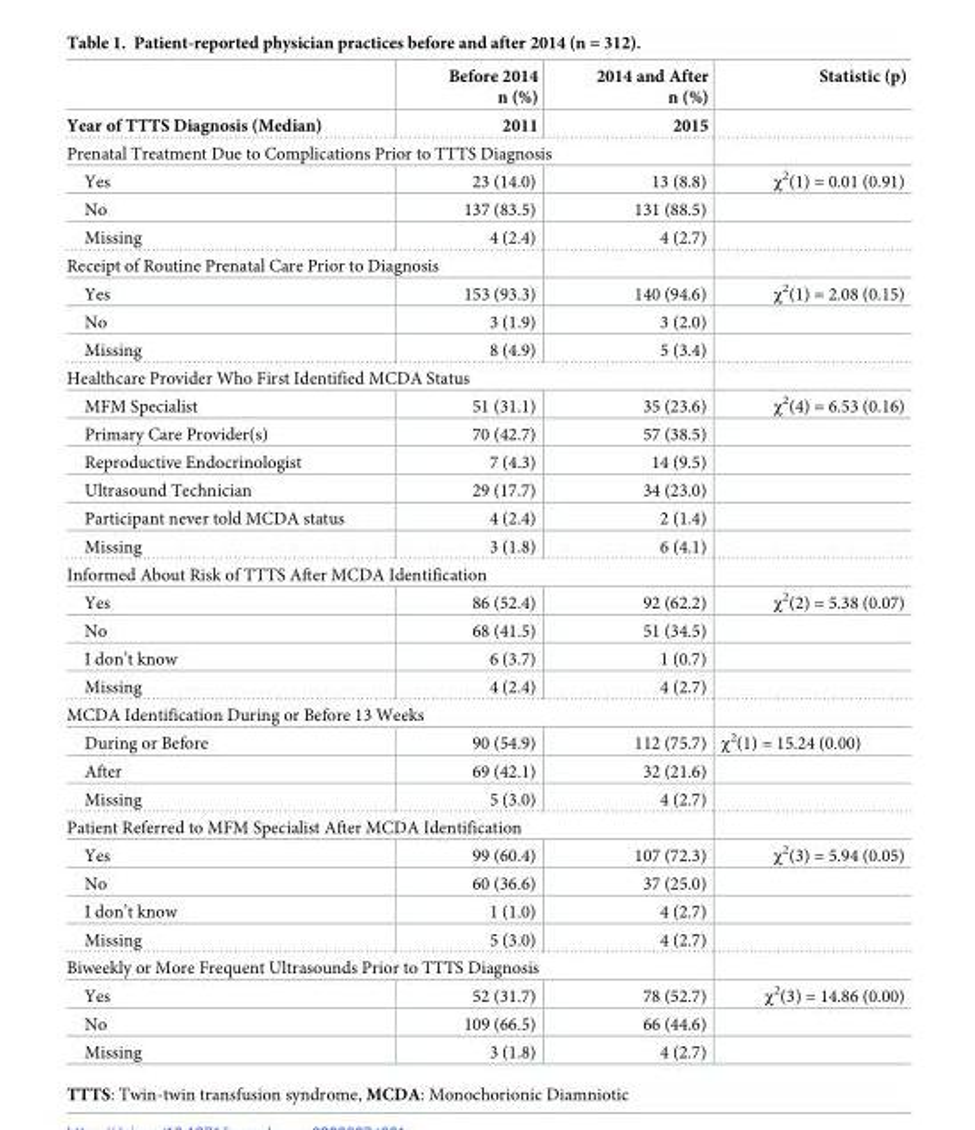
<table><thead><tr><td rowspan="2">Year of TTTS Diagnosis (Median)</td><td rowspan="2">Before 2014 n (%) 2011</td><td rowspan="2">2014 and After n (%) 2015</td><td rowspan="2">Statistic (p)</td></tr><tr></tr></thead><tbody><tr><td colspan="4">Prenatal Treatment Due to Complications Prior to TTTS Diagnosis</td></tr><tr><td>Yes</td><td>23 (14.0)</td><td>13 (8.8)</td><td>χ<sup>2</sup>(1) = 0.01 (0.91)</td></tr><tr><td>No</td><td>137 (83.5)</td><td>131 (88.5)</td><td></td></tr><tr><td>Missing</td><td>4 (2.4)</td><td>4 (2.7)</td><td></td></tr><tr><td colspan="4">Receipt of Routine Prenatal Care Prior to Diagnosis</td></tr><tr><td>Yes</td><td>153 (93.3)</td><td>140 (94.6)</td><td>χ<sup>2</sup>(1) = 2.08 (0.15)</td></tr><tr><td>No</td><td>3 (1.9)</td><td>3 (2.0)</td><td></td></tr><tr><td>Missing</td><td>8 (4.9)</td><td>5 (3.4)</td><td></td></tr><tr><td colspan="4">Healthcare Provider Who First Identified MCDA Status</td></tr><tr><td>MFM Specialist</td><td>51 (31.1)</td><td>35 (23.6)</td><td>χ<sup>2</sup>(4) = 6.53 (0.16)</td></tr><tr><td>Primary Care Provider(s)</td><td>70 (42.7)</td><td>57 (38.5)</td><td></td></tr><tr><td>Reproductive Endocrinologist</td><td>7 (4.3)</td><td>14 (9.5)</td><td></td></tr><tr><td>Ultrasound Technician</td><td>29 (17.7)</td><td>34 (23.0)</td><td></td></tr><tr><td>Participant never told MCDA status</td><td>4 (2.4)</td><td>2 (1.4)</td><td></td></tr><tr><td>Missing</td><td>3 (1.8)</td><td>6 (4.1)</td><td></td></tr><tr><td colspan="4">Informed About Risk of TTTS After MCDA Identification</td></tr><tr><td>Yes</td><td>86 (52.4)</td><td>92 (62.2)</td><td>χ<sup>2</sup>(2) = 5.38 (0.07)</td></tr><tr><td>No</td><td>68 (41.5)</td><td>51 (34.5)</td><td></td></tr><tr><td>I don’t know</td><td>6 (3.7)</td><td>1 (0.7)</td><td></td></tr><tr><td>Missing</td><td>4 (2.4)</td><td>4 (2.7)</td><td></td></tr><tr><td colspan="4">MCDA Identification During or Before 13 Weeks</td></tr><tr><td>During or Before</td><td>90 (54.9)</td><td>112 (75.7)</td><td>χ<sup>2</sup>(1) = 15.24 (0.00)</td></tr><tr><td>After</td><td>69 (42.1)</td><td>32 (21.6)</td><td></td></tr><tr><td>Missing</td><td>5 (3.0)</td><td>4 (2.7)</td><td></td></tr><tr><td colspan="4">Patient Referred to MFM Specialist After MCDA Identification</td></tr><tr><td>Yes</td><td>99 (60.4)</td><td>107 (72.3)</td><td>χ<sup>2</sup>(3) = 5.94 (0.05)</td></tr><tr><td>No</td><td>60 (36.6)</td><td>37 (25.0)</td><td></td></tr><tr><td>I don’t know</td><td>1 (1.0)</td><td>4 (2.7)</td><td></td></tr><tr><td>Missing</td><td>5 (3.0)</td><td>4 (2.7)</td><td></td></tr><tr><td colspan="4">Biweekly or More Frequent Ultrasounds Prior to TTTS Diagnosis</td></tr><tr><td>Yes</td><td>52 (31.7)</td><td>78 (52.7)</td><td>χ<sup>2</sup>(3) = 14.86 (0.00)</td></tr><tr><td>No</td><td>109 (66.5)</td><td>66 (44.6)</td><td></td></tr><tr><td>Missing</td><td>3 (1.8)</td><td>4 (2.7)</td><td></td></tr></tbody></table>